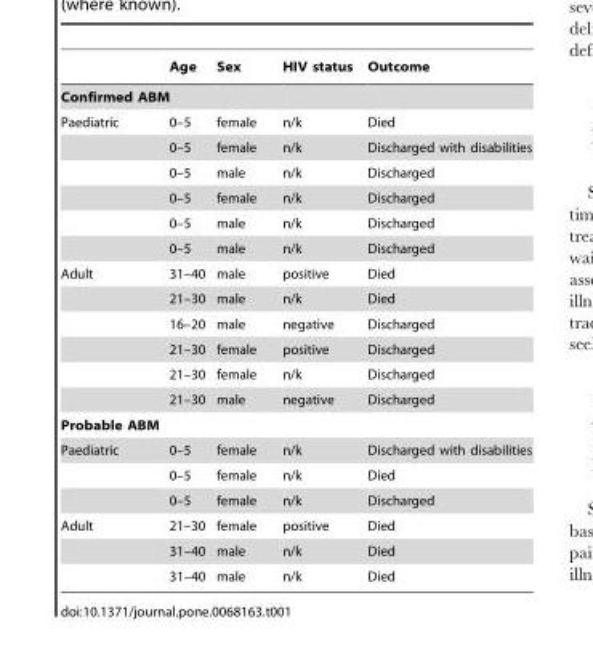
<table><thead><tr><td></td><td>Age</td><td>Sex</td><td>HIV status</td><td>Outcome</td></tr></thead><tbody><tr><td colspan="5">Confirmed ABM</td></tr><tr><td rowspan="6">Paediatric</td><td>0–5</td><td>female</td><td>n/k</td><td>Died</td></tr><tr><td>0–5</td><td>female</td><td>n/k</td><td>Discharged with disabilities</td></tr><tr><td>0–5</td><td>male</td><td>n/k</td><td>Discharged</td></tr><tr><td>0–5</td><td>female</td><td>n/k</td><td>Discharged</td></tr><tr><td>0–5</td><td>male</td><td>n/k</td><td>Discharged</td></tr><tr><td>0–5</td><td>male</td><td>n/k</td><td>Discharged</td></tr><tr><td rowspan="6">Adult</td><td>31–40</td><td>male</td><td>positive</td><td>Died</td></tr><tr><td>21–30</td><td>male</td><td>n/k</td><td>Died</td></tr><tr><td>16–20</td><td>male</td><td>negative</td><td>Discharged</td></tr><tr><td>21–30</td><td>female</td><td>positive</td><td>Discharged</td></tr><tr><td>21–30</td><td>female</td><td>n/k</td><td>Discharged</td></tr><tr><td>21–30</td><td>male</td><td>negative</td><td>Discharged</td></tr><tr><td colspan="5">Probable ABM</td></tr><tr><td rowspan="3">Paediatric</td><td>0–5</td><td>female</td><td>n/k</td><td>Discharged with disabilities</td></tr><tr><td>0–5</td><td>female</td><td>n/k</td><td>Died</td></tr><tr><td>0–5</td><td>female</td><td>n/k</td><td>Discharged</td></tr><tr><td rowspan="3">Adult</td><td>21–30</td><td>female</td><td>positive</td><td>Died</td></tr><tr><td>31–40</td><td>male</td><td>n/k</td><td>Died</td></tr><tr><td>31–40</td><td>male</td><td>n/k</td><td>Died</td></tr></tbody></table>